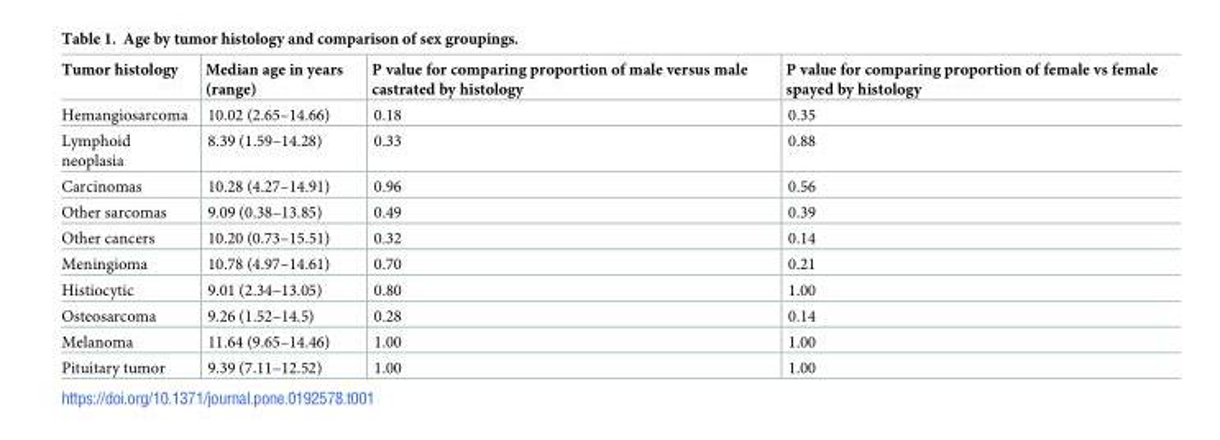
<table><thead><tr><td>Tumor histology</td><td>Median age in years (range)</td><td>P value for comparing proportion of male versus male castrated by histology</td><td>P value for comparing proportion of female vs female spayed by histology</td></tr></thead><tbody><tr><td>Hemangiosarcoma</td><td>10.02 (2.65–14.66)</td><td>0.18</td><td>0.35</td></tr><tr><td>Lymphoid neoplasia</td><td>8.39 (1.59–14.28)</td><td>0.33</td><td>0.88</td></tr><tr><td>Carcinomas</td><td>10.28 (4.27–14.91)</td><td>0.96</td><td>0.56</td></tr><tr><td>Other sarcomas</td><td>9.09 (0.38–13.85)</td><td>0.49</td><td>0.39</td></tr><tr><td>Other cancers</td><td>10.20 (0.73–15.51)</td><td>0.32</td><td>0.14</td></tr><tr><td>Meningioma</td><td>10.78 (4.97–14.61)</td><td>0.70</td><td>0.21</td></tr><tr><td>Histiocytic</td><td>9.01 (2.34–13.05)</td><td>0.80</td><td>1.00</td></tr><tr><td>Osteosarcoma</td><td>9.26 (1.52–14.5)</td><td>0.28</td><td>0.14</td></tr><tr><td>Melanoma</td><td>11.64 (9.65–14.46)</td><td>1.00</td><td>1.00</td></tr><tr><td>Pituitary tumor</td><td>9.39 (7.11–12.52)</td><td>1.00</td><td>1.00</td></tr></tbody></table>